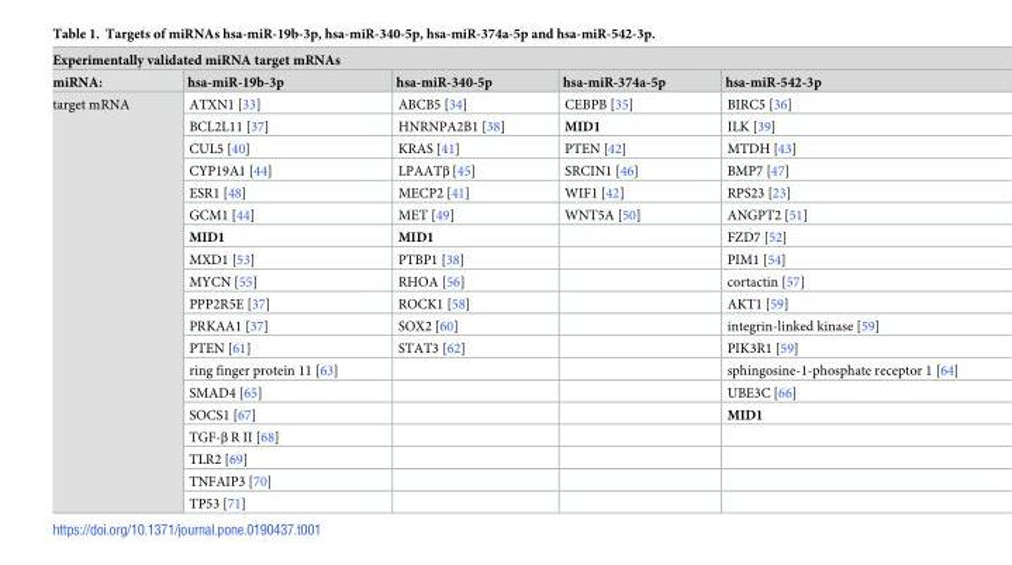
<table><thead><tr><td colspan="5">Experimentally validated miRNA target mRNAs</td></tr><tr><td>miRNA:</td><td>hsa-miR-19b-3p</td><td>hsa-miR-340-5p</td><td>hsa-miR-374a-5p</td><td>hsa-miR-542-3p</td></tr></thead><tbody><tr><td rowspan="19">target mRNA</td><td>ATXN1 [33]</td><td>ABCB5 [34]</td><td>CEBPB [35]</td><td>BIRC5 [36]</td></tr><tr><td>BCL2L11 [37]</td><td>HNRNPA2B1 [38]</td><td>MID1</td><td>ILK [39]</td></tr><tr><td>CUL5 [40]</td><td>KRAS [41]</td><td>PTEN [42]</td><td>MTDH [43]</td></tr><tr><td>CYP19A1 [44]</td><td>LPAATβ [45]</td><td>SRCIN1 [46]</td><td>BMP7 [47]</td></tr><tr><td>ESR1 [48]</td><td>MECP2 [41]</td><td>WIF1 [42]</td><td>RPS23 [23]</td></tr><tr><td>GCM1 [44]</td><td>MET [49]</td><td>WNT5A [50]</td><td>ANGPT2 [51]</td></tr><tr><td>MID1</td><td>MID1</td><td></td><td>FZD7 [52]</td></tr><tr><td>MXD1 [53]</td><td>PTBP1 [38]</td><td></td><td>PIM1 [54]</td></tr><tr><td>MYCN [55]</td><td>RHOA [56]</td><td></td><td>cortactin [57]</td></tr><tr><td>PPP2R5E [37]</td><td>ROCK1 [58]</td><td></td><td>AKT1 [59]</td></tr><tr><td>PRKAA1 [37]</td><td>SOX2 [60]</td><td></td><td>integrin-linked kinase [59]</td></tr><tr><td>PTEN [61]</td><td>STAT3 [62]</td><td></td><td>PIK3R1 [59]</td></tr><tr><td>ring finger protein 11 [63]</td><td></td><td></td><td>sphingosine-1-phosphate receptor 1 [64]</td></tr><tr><td>SMAD4 [65]</td><td></td><td></td><td>UBE3C [66]</td></tr><tr><td>SOCS1 [67]</td><td></td><td></td><td>MID1</td></tr><tr><td>TGF-β R II [68]</td><td></td><td></td><td></td></tr><tr><td>TLR2 [69]</td><td></td><td></td><td></td></tr><tr><td>TNFAIP3 [70]</td><td></td><td></td><td></td></tr><tr><td>TP53 [71]</td><td></td><td></td><td></td></tr></tbody></table>